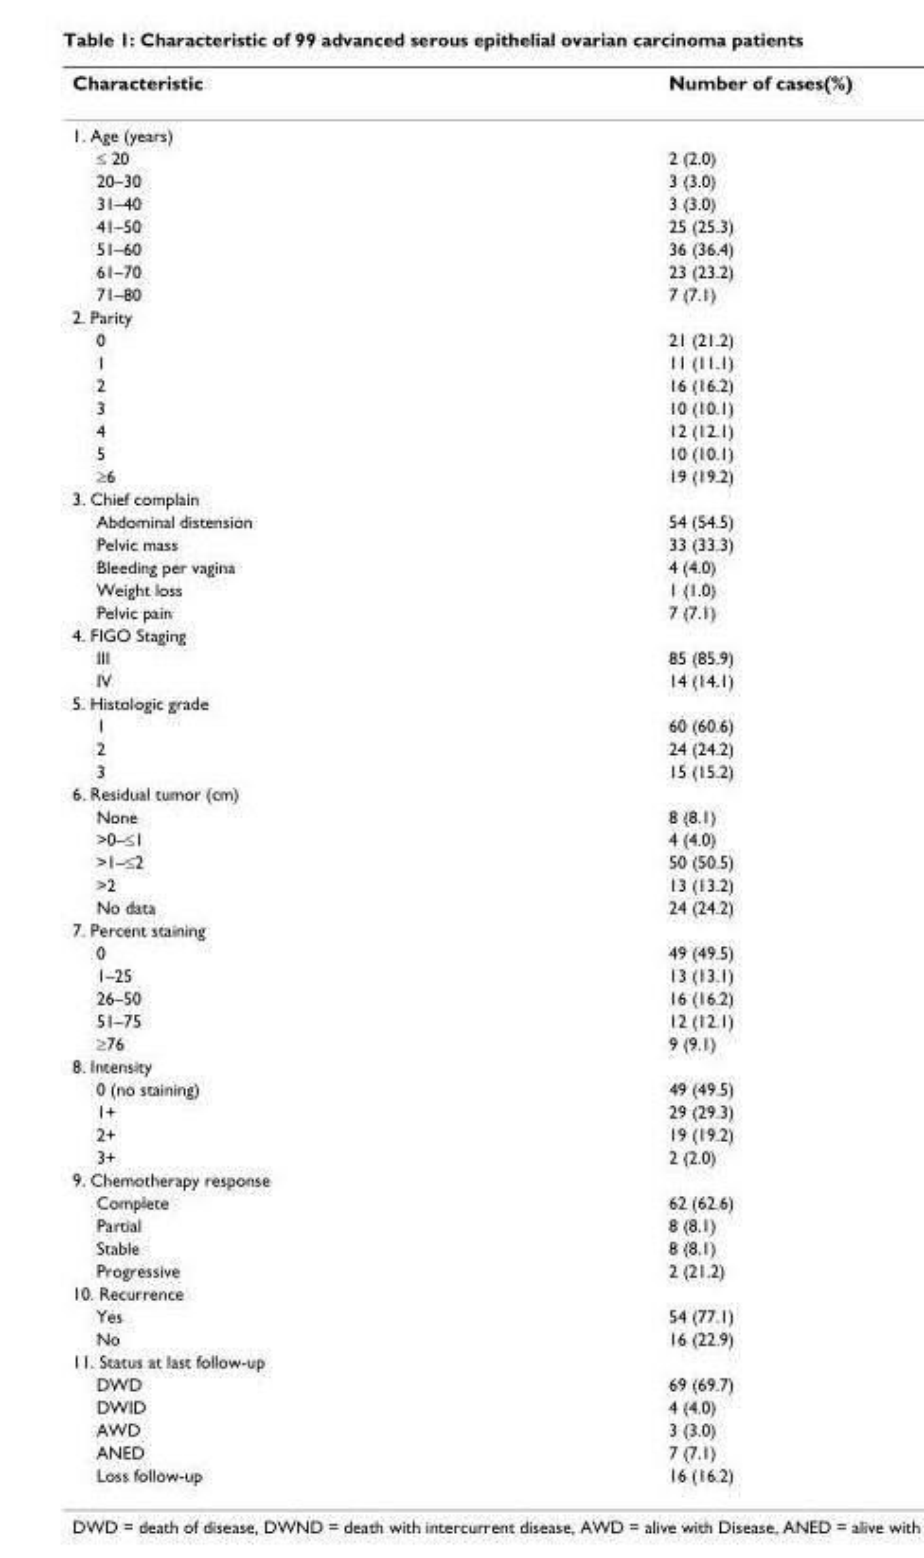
<table><thead><tr><td>Characteristic</td><td>Number of cases(%)</td></tr></thead><tbody><tr><td colspan="2">1. Age (years)</td></tr><tr><td>≤ 20</td><td>2 (2.0)</td></tr><tr><td>20–30</td><td>3 (3.0)</td></tr><tr><td>31–40</td><td>3 (3.0)</td></tr><tr><td>41–50</td><td>25 (25.3)</td></tr><tr><td>51–60</td><td>36 (36.4)</td></tr><tr><td>61–70</td><td>23 (23.2)</td></tr><tr><td>71–80</td><td>7 (7.1)</td></tr><tr><td colspan="2">2. Parity</td></tr><tr><td>0</td><td>21 (21.2)</td></tr><tr><td>1</td><td>11 (11.1)</td></tr><tr><td>2</td><td>16 (16.2)</td></tr><tr><td>3</td><td>10 (10.1)</td></tr><tr><td>4</td><td>12 (12.1)</td></tr><tr><td>5</td><td>10 (10.1)</td></tr><tr><td>≥6</td><td>19 (19.2)</td></tr><tr><td colspan="2">3. Chief complain</td></tr><tr><td>Abdominal distension</td><td>54 (54.5)</td></tr><tr><td>Pelvic mass</td><td>33 (33.3)</td></tr><tr><td>Bleeding per vagina</td><td>4 (4.0)</td></tr><tr><td>Weight loss</td><td>1 (1.0)</td></tr><tr><td>Pelvic pain</td><td>7 (7.1)</td></tr><tr><td colspan="2">4. FIGO Staging</td></tr><tr><td>III</td><td>85 (85.9)</td></tr><tr><td>IV</td><td>14 (14.1)</td></tr><tr><td colspan="2">5. Histologic grade</td></tr><tr><td>1</td><td>60 (60.6)</td></tr><tr><td>2</td><td>24 (24.2)</td></tr><tr><td>3</td><td>15 (15.2)</td></tr><tr><td colspan="2">6. Residual tumor (cm)</td></tr><tr><td>None</td><td>8 (8.1)</td></tr><tr><td>&gt;0–≤1</td><td>4 (4.0)</td></tr><tr><td>&gt;1–≤2</td><td>50 (50.5)</td></tr><tr><td>&gt;2</td><td>13 (13.2)</td></tr><tr><td>No data</td><td>24 (24.2)</td></tr><tr><td colspan="2">7. Percent staining</td></tr><tr><td>0</td><td>49 (49.5)</td></tr><tr><td>1–25</td><td>13 (13.1)</td></tr><tr><td>26–50</td><td>16 (16.2)</td></tr><tr><td>51–75</td><td>12 (12.1)</td></tr><tr><td>≥76</td><td>9 (9.1)</td></tr><tr><td colspan="2">8. Intensity</td></tr><tr><td>0 (no staining)</td><td>49 (49.5)</td></tr><tr><td>1+</td><td>29 (29.3)</td></tr><tr><td>2+</td><td>19 (19.2)</td></tr><tr><td>3+</td><td>2 (2.0)</td></tr><tr><td colspan="2">9. Chemotherapy response</td></tr><tr><td>Complete</td><td>62 (62.6)</td></tr><tr><td>Partial</td><td>8 (8.1)</td></tr><tr><td>Stable</td><td>8 (8.1)</td></tr><tr><td>Progressive</td><td>2 (21.2)</td></tr><tr><td colspan="2">10. Recurrence</td></tr><tr><td>Yes</td><td>54 (77.1)</td></tr><tr><td>No</td><td>16 (22.9)</td></tr><tr><td colspan="2">11. Status at last follow-up</td></tr><tr><td>DWD</td><td>69 (69.7)</td></tr><tr><td>DWID</td><td>4 (4.0)</td></tr><tr><td>AWD</td><td>3 (3.0)</td></tr><tr><td>ANED</td><td>7 (7.1)</td></tr><tr><td>Loss follow-up</td><td>16 (16.2)</td></tr></tbody></table>